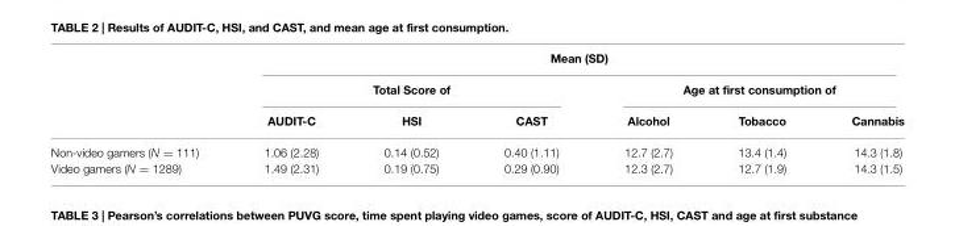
<table><thead><tr><td rowspan="3"></td><td colspan="6">Mean (SD)</td></tr><tr><td colspan="3">Total Score of</td><td colspan="3">Age at first consumption of</td></tr><tr><td>AUDIT-C</td><td>HSI</td><td>CAST</td><td>Alcohol</td><td>Tobacco</td><td>Cannabis</td></tr></thead><tbody><tr><td>Non-video gamers (N = 111)</td><td>1.06 (2.28)</td><td>0.14 (0.52)</td><td>0.40 (1.11)</td><td>12.7 (2.7)</td><td>13.4 (1.4)</td><td>14.3 (1.8)</td></tr><tr><td>Video gamers (N = 1289)</td><td>1.49 (2.31)</td><td>0.19 (0.75)</td><td>0.29 (0.90)</td><td>12.3 (2.7)</td><td>12.7 (1.9)</td><td>14.3 (1.5)</td></tr></tbody></table>